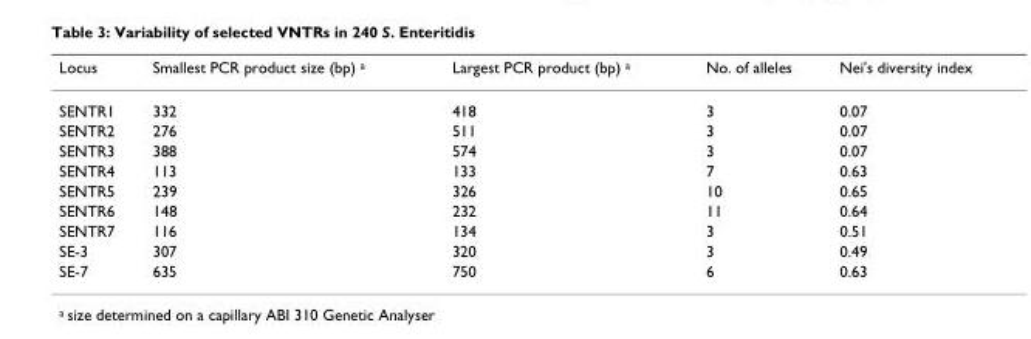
<table><thead><tr><td>Locus</td><td>Smallest PCR product size (bp) <sup>a</sup></td><td>Largest PCR product (bp) <sup>a</sup></td><td>No. of alleles</td><td>Nei&#x27;s diversity index</td></tr></thead><tbody><tr><td>SENTR1</td><td>332</td><td>418</td><td>3</td><td>0.07</td></tr><tr><td>SENTR2</td><td>276</td><td>511</td><td>3</td><td>0.07</td></tr><tr><td>SENTR3</td><td>388</td><td>574</td><td>3</td><td>0.07</td></tr><tr><td>SENTR4</td><td>113</td><td>133</td><td>7</td><td>0.63</td></tr><tr><td>SENTR5</td><td>239</td><td>326</td><td>10</td><td>0.65</td></tr><tr><td>SENTR6</td><td>148</td><td>232</td><td>11</td><td>0.64</td></tr><tr><td>SENTR7</td><td>116</td><td>134</td><td>3</td><td>0.51</td></tr><tr><td>SE-3</td><td>307</td><td>320</td><td>3</td><td>0.49</td></tr><tr><td>SE-7</td><td>635</td><td>750</td><td>6</td><td>0.63</td></tr></tbody></table>